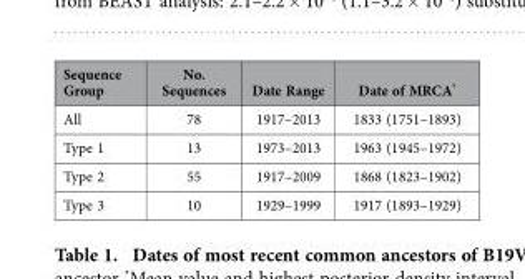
<table><thead><tr><td>Sequence Group</td><td>No. Sequences</td><td>Date Range</td><td>Date of MRCA*</td></tr></thead><tbody><tr><td>All</td><td>78</td><td>1917–2013</td><td>1833 (1751–1893)</td></tr><tr><td>Type 1</td><td>13</td><td>1973–2013</td><td>1963 (1945–1972)</td></tr><tr><td>Type 2</td><td>55</td><td>1917–2009</td><td>1868 (1823–1902)</td></tr><tr><td>Type 3</td><td>10</td><td>1929–1999</td><td>1917 (1893–1929)</td></tr></tbody></table>